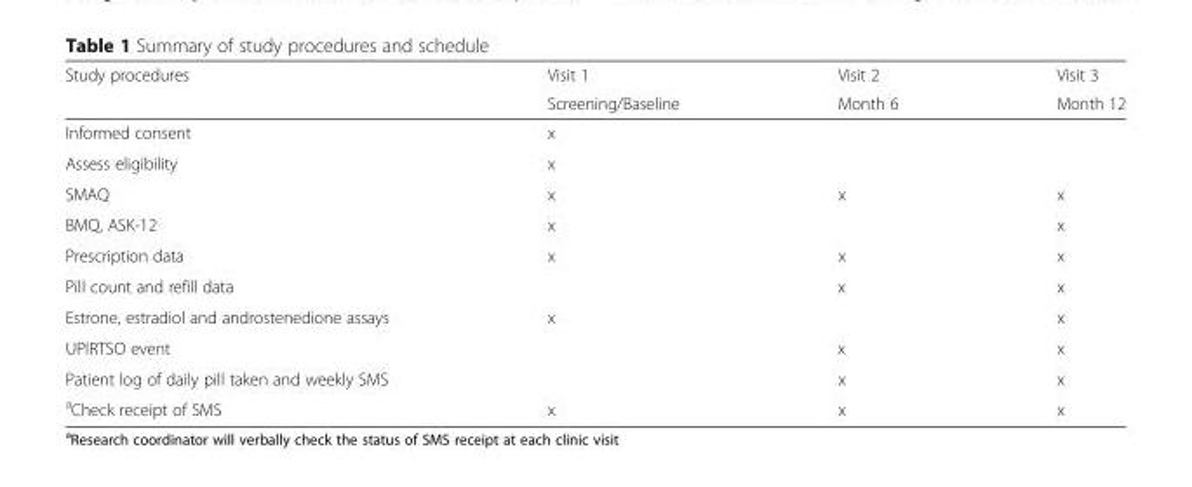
<table><thead><tr><td rowspan="2">Study procedures</td><td rowspan="2">Visit 1 Screening/Baseline</td><td rowspan="2">Visit 2 Month 6</td><td rowspan="2">Visit 3 Month 12</td></tr><tr></tr></thead><tbody><tr><td>Informed consent</td><td>x</td><td></td><td></td></tr><tr><td>Assess eligibility</td><td>x</td><td></td><td></td></tr><tr><td>SMAQ</td><td>x</td><td>x</td><td>x</td></tr><tr><td>BMQ, ASK-12</td><td>x</td><td></td><td>x</td></tr><tr><td>Prescription data</td><td>x</td><td>x</td><td>x</td></tr><tr><td>Pill count and refill data</td><td></td><td>x</td><td>x</td></tr><tr><td>Estrone, estradiol and androstenedione assays</td><td>x</td><td></td><td>x</td></tr><tr><td>UPIRTSO event</td><td></td><td>x</td><td>x</td></tr><tr><td>Patient log of daily pill taken and weekly SMS</td><td></td><td>x</td><td>x</td></tr><tr><td><sup>a</sup>Check receipt of SMS</td><td>x</td><td>x</td><td>x</td></tr></tbody></table>